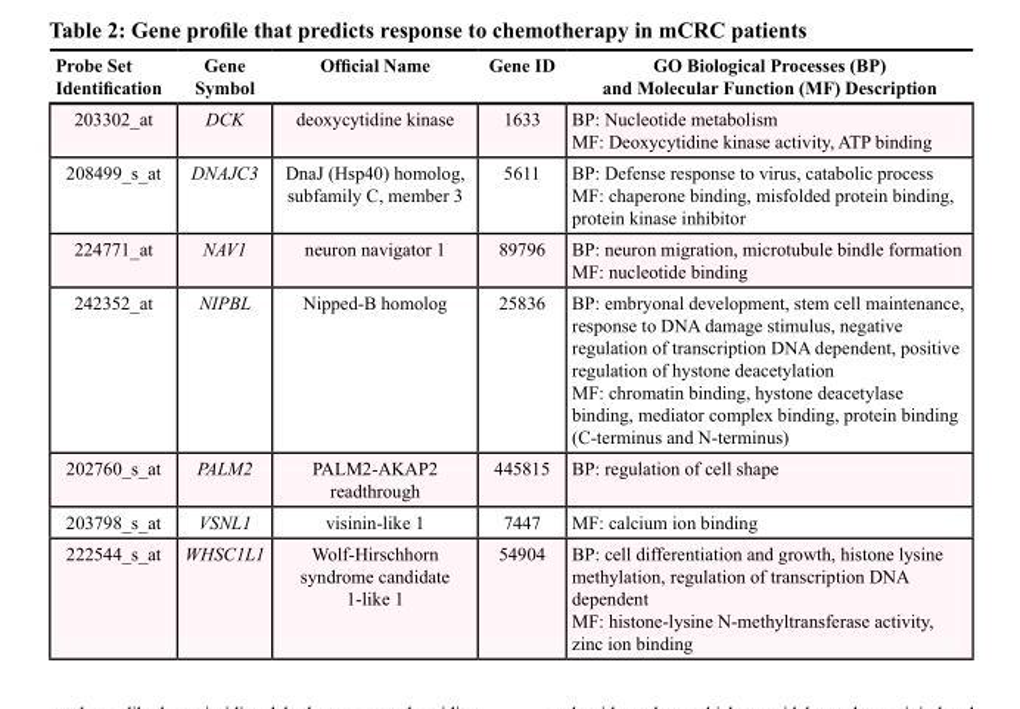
<table><thead><tr><td>Probe Set Identification</td><td>Gene Symbol</td><td>Official Name</td><td>Gene ID</td><td>GO Biological Processes (BP) and Molecular Function (MF) Description</td></tr></thead><tbody><tr><td>203302_at</td><td>DCK</td><td>deoxycytidine kinase</td><td>1633</td><td>BP: Nucleotide metabolism MF: Deoxycytidine kinase activity, ATP binding</td></tr><tr><td>208499_s_at</td><td>DNAJC3</td><td>DnaJ (Hsp40) homolog, subfamily C, member 3</td><td>5611</td><td>BP: Defense response to virus, catabolic process MF: chaperone binding, misfolded protein binding, protein kinase inhibitor</td></tr><tr><td>224771_at</td><td>NAV1</td><td>neuron navigator 1</td><td>89796</td><td>BP: neuron migration, microtubule bindle formation MF: nucleotide binding</td></tr><tr><td>242352_at</td><td>NIPBL</td><td>Nipped-B homolog</td><td>25836</td><td>BP: embryonal development, stem cell maintenance, response to DNA damage stimulus, negative regulation of transcription DNA dependent, positive regulation of hystone deacetylation MF: chromatin binding, hystone deacetylase binding, mediator complex binding, protein binding (C-terminus and N-terminus)</td></tr><tr><td>202760_s_at</td><td>PALM2</td><td>PALM2-AKAP2 readthrough</td><td>445815</td><td>BP: regulation of cell shape</td></tr><tr><td>203798_s_at</td><td>VSNL1</td><td>visinin-like 1</td><td>7447</td><td>MF: calcium ion binding</td></tr><tr><td>222544_s_at</td><td>WHSC1L1</td><td>Wolf-Hirschhorn syndrome candidate 1-like 1</td><td>54904</td><td>BP: cell differentiation and growth, histone lysine methylation, regulation of transcription DNA dependent MF: histone-lysine N-methyltransferase activity, zinc ion binding</td></tr></tbody></table>